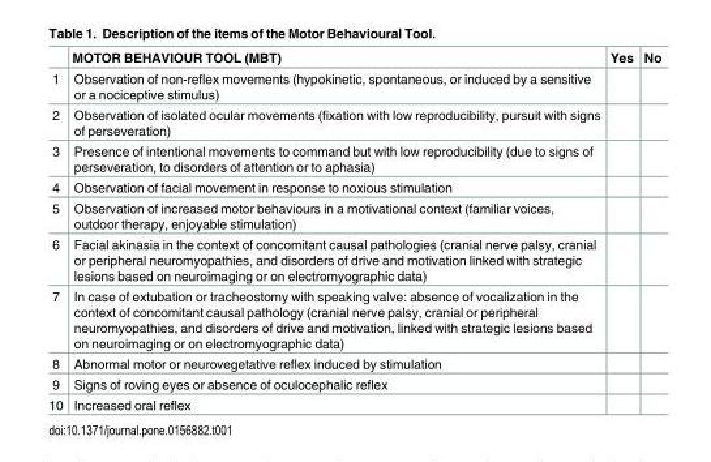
<table><thead><tr><td></td><td>MOTOR BEHAVIOUR TOOL (MBT)</td><td>Yes</td><td>No</td></tr></thead><tbody><tr><td>1</td><td>Observation of non-reflex movements (hypokinetic, spontaneous, or induced by a sensitive or a nociceptive stimulus)</td><td></td><td></td></tr><tr><td>2</td><td>Observation of isolated ocular movements (fixation with low reproducibility, pursuit with signs of perseveration)</td><td></td><td></td></tr><tr><td>3</td><td>Presence of intentional movements to command but with low reproducibility (due to signs of perseveration, to disorders of attention or to aphasia)</td><td></td><td></td></tr><tr><td>4</td><td>Observation of facial movement in response to noxious stimulation</td><td></td><td></td></tr><tr><td>5</td><td>Observation of increased motor behaviours in a motivational context (familiar voices, outdoor therapy, enjoyable stimulation)</td><td></td><td></td></tr><tr><td>6</td><td>Facial akinasia in the context of concomitant causal pathologies (cranial nerve palsy, cranial or peripheral neuromyopathies, and disorders of drive and motivation linked with strategic lesions based on neuroimaging or on electromyographic data)</td><td></td><td></td></tr><tr><td>7</td><td>In case of extubation or tracheostomy with speaking valve: absence of vocalization in the context of concomitant causal pathology (cranial nerve palsy, cranial or peripheral neuromyopathies, and disorders of drive and motivation, linked with strategic lesions based on neuroimaging or on electromyographic data)</td><td></td><td></td></tr><tr><td>8</td><td>Abnormal motor or neurovegetative reflex induced by stimulation</td><td></td><td></td></tr><tr><td>9</td><td>Signs of roving eyes or absence of oculocephalic reflex</td><td></td><td></td></tr><tr><td>10</td><td>Increased oral reflex</td><td></td><td></td></tr></tbody></table>